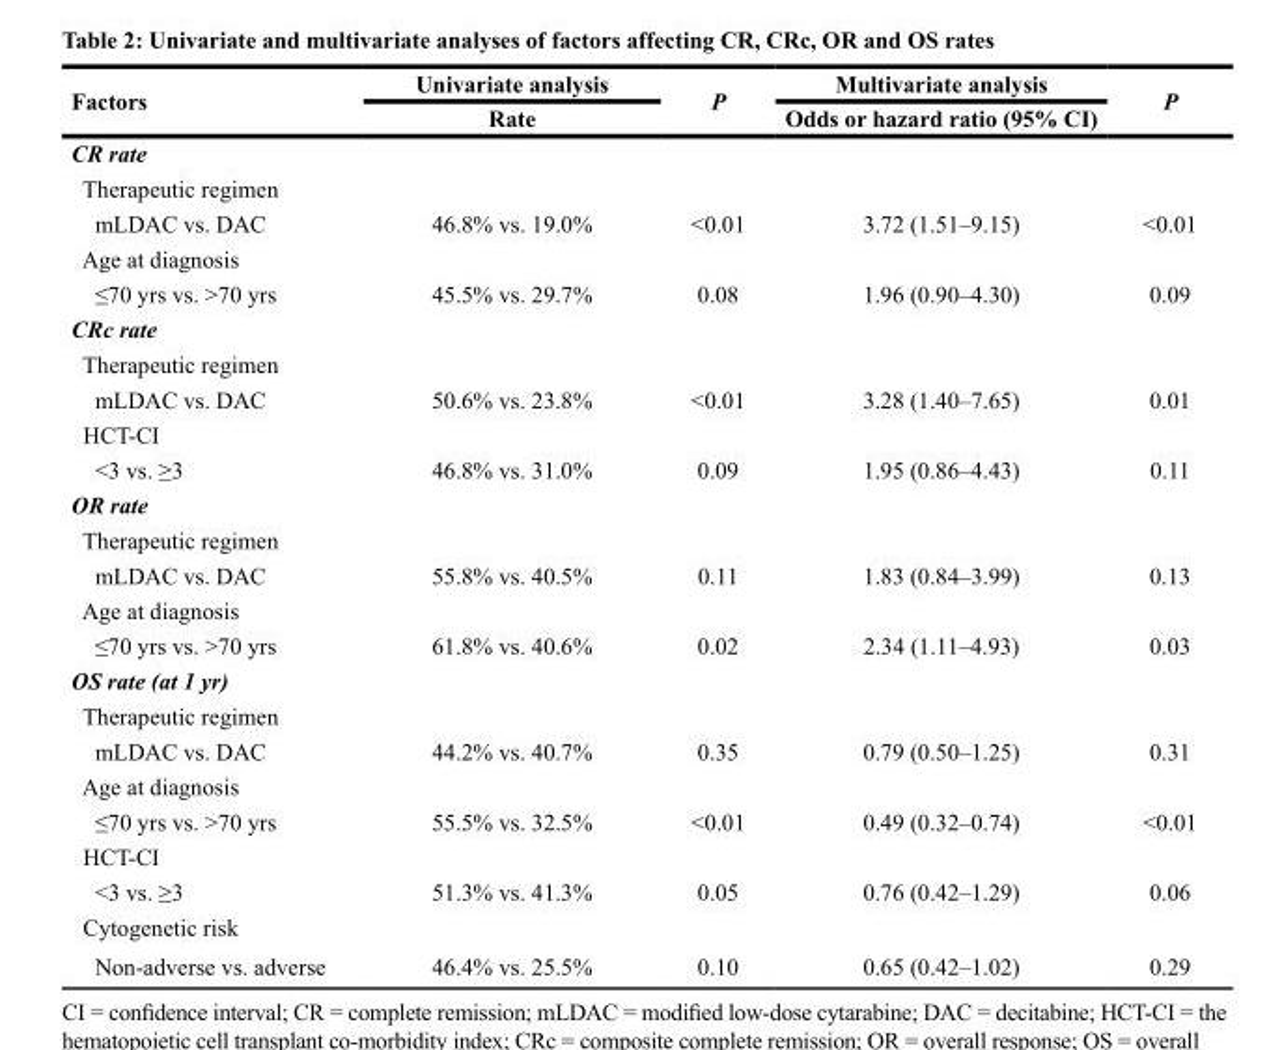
<table><thead><tr><td rowspan="2">Factors</td><td rowspan="2">Univariate analysis Rate</td><td rowspan="2">P</td><td rowspan="2">Multivariate analysis Odds or hazard ratio (95% CI)</td><td rowspan="2">P</td></tr><tr></tr></thead><tbody><tr><td colspan="5">CR rate</td></tr><tr><td colspan="5">Therapeutic regimen</td></tr><tr><td>mLDAC vs. DAC</td><td>46.8% vs. 19.0%</td><td>&lt;0.01</td><td>3.72 (1.51–9.15)</td><td>&lt;0.01</td></tr><tr><td colspan="5">Age at diagnosis</td></tr><tr><td>≤70 yrs vs. &gt;70 yrs</td><td>45.5% vs. 29.7%</td><td>0.08</td><td>1.96 (0.90–4.30)</td><td>0.09</td></tr><tr><td colspan="5">CRc rate</td></tr><tr><td colspan="5">Therapeutic regimen</td></tr><tr><td>mLDAC vs. DAC</td><td>50.6% vs. 23.8%</td><td>&lt;0.01</td><td>3.28 (1.40–7.65)</td><td>0.01</td></tr><tr><td colspan="5">HCT-CI</td></tr><tr><td>&lt;3 vs. ≥3</td><td>46.8% vs. 31.0%</td><td>0.09</td><td>1.95 (0.86–4.43)</td><td>0.11</td></tr><tr><td colspan="5">OR rate</td></tr><tr><td colspan="5">Therapeutic regimen</td></tr><tr><td>mLDAC vs. DAC</td><td>55.8% vs. 40.5%</td><td>0.11</td><td>1.83 (0.84–3.99)</td><td>0.13</td></tr><tr><td colspan="5">Age at diagnosis</td></tr><tr><td>≤70 yrs vs. &gt;70 yrs</td><td>61.8% vs. 40.6%</td><td>0.02</td><td>2.34 (1.11–4.93)</td><td>0.03</td></tr><tr><td colspan="5">OS rate (at 1 yr)</td></tr><tr><td colspan="5">Therapeutic regimen</td></tr><tr><td>mLDAC vs. DAC</td><td>44.2% vs. 40.7%</td><td>0.35</td><td>0.79 (0.50–1.25)</td><td>0.31</td></tr><tr><td colspan="5">Age at diagnosis</td></tr><tr><td>≤70 yrs vs. &gt;70 yrs</td><td>55.5% vs. 32.5%</td><td>&lt;0.01</td><td>0.49 (0.32–0.74)</td><td>&lt;0.01</td></tr><tr><td colspan="5">HCT-CI</td></tr><tr><td>&lt;3 vs. ≥3</td><td>51.3% vs. 41.3%</td><td>0.05</td><td>0.76 (0.42–1.29)</td><td>0.06</td></tr><tr><td colspan="5">Cytogenetic risk</td></tr><tr><td>Non-adverse vs. adverse</td><td>46.4% vs. 25.5%</td><td>0.10</td><td>0.65 (0.42–1.02)</td><td>0.29</td></tr></tbody></table>